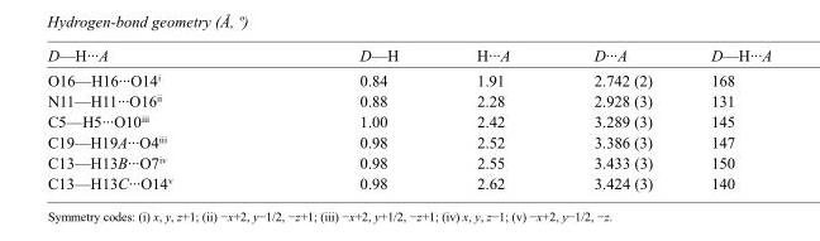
<table><tbody><tr><td>D—H···A</td><td>D—H</td><td>H···A</td><td>D···A</td><td>D—H···A</td></tr><tr><td>O16—H16···O14<sup>i</sup></td><td>0.84</td><td>1.91</td><td>2.742 (2)</td><td>168</td></tr><tr><td>N11—H11···O16<sup>ii</sup></td><td>0.88</td><td>2.28</td><td>2.928 (3)</td><td>131</td></tr><tr><td>C5—H5···O10<sup>iii</sup></td><td>1.00</td><td>2.42</td><td>3.289 (3)</td><td>145</td></tr><tr><td>C19—H19A···O4<sup>iii</sup></td><td>0.98</td><td>2.52</td><td>3.386 (3)</td><td>147</td></tr><tr><td>C13—H13B···O7<sup>iv</sup></td><td>0.98</td><td>2.55</td><td>3.433 (3)</td><td>150</td></tr><tr><td>C13—H13C···O14<sup>v</sup></td><td>0.98</td><td>2.62</td><td>3.424 (3)</td><td>140</td></tr></tbody></table>